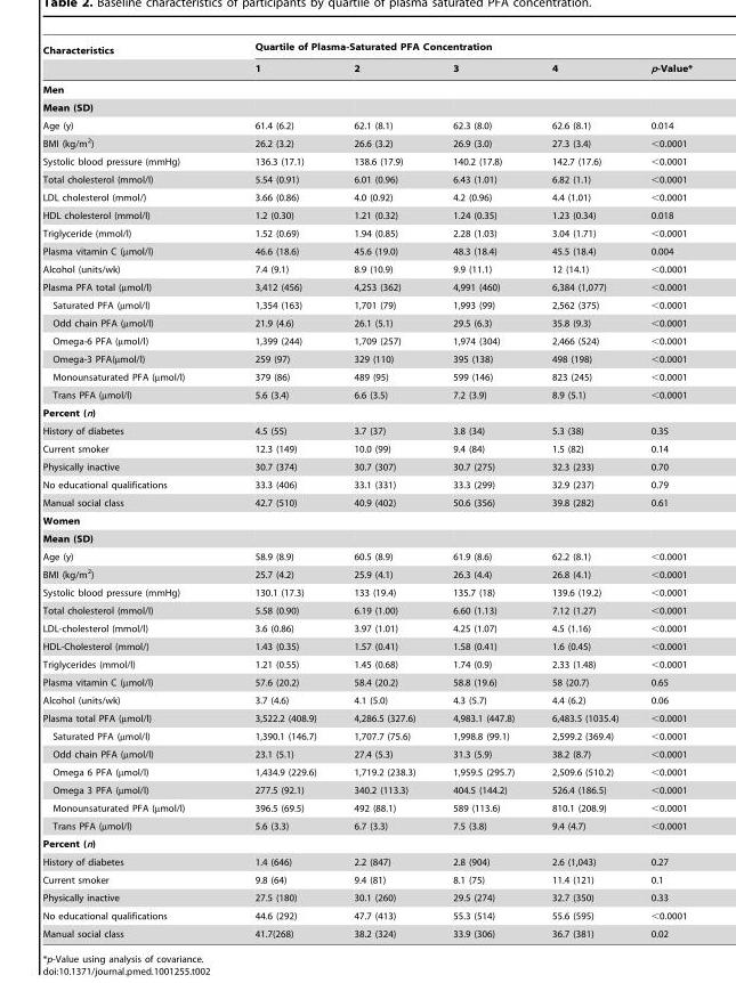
<table><thead><tr><td rowspan="2">Characteristics</td><td colspan="5">Quartile of Plasma-Saturated PFA Concentration</td></tr><tr><td>1</td><td>2</td><td>3</td><td>4</td><td>p-Value*</td></tr></thead><tbody><tr><td colspan="6">Men</td></tr><tr><td colspan="6">Mean (SD)</td></tr><tr><td>Age (y)</td><td>61.4 (6.2)</td><td>62.1 (8.1)</td><td>62.3 (8.0)</td><td>62.6 (8.1)</td><td>0.014</td></tr><tr><td>BMI (kg/m<sup>2</sup>)</td><td>26.2 (3.2)</td><td>26.6 (3.2)</td><td>26.9 (3.0)</td><td>27.3 (3.4)</td><td>&lt;0.0001</td></tr><tr><td>Systolic blood pressure (mmHg)</td><td>136.3 (17.1)</td><td>138.6 (17.9)</td><td>140.2 (17.8)</td><td>142.7 (17.6)</td><td>&lt;0.0001</td></tr><tr><td>Total cholesterol (mmol/l)</td><td>5.54 (0.91)</td><td>6.01 (0.96)</td><td>6.43 (1.01)</td><td>6.82 (1.1)</td><td>&lt;0.0001</td></tr><tr><td>LDL cholesterol (mmol/)</td><td>3.66 (0.86)</td><td>4.0 (0.92)</td><td>4.2 (0.96)</td><td>4.4 (1.01)</td><td>&lt;0.0001</td></tr><tr><td>HDL cholesterol (mmol/l)</td><td>1.2 (0.30)</td><td>1.21 (0.32)</td><td>1.24 (0.35)</td><td>1.23 (0.34)</td><td>0.018</td></tr><tr><td>Triglyceride (mmol/l)</td><td>1.52 (0.69)</td><td>1.94 (0.85)</td><td>2.28 (1.03)</td><td>3.04 (1.71)</td><td>&lt;0.0001</td></tr><tr><td>Plasma vitamin C (µmol/l)</td><td>46.6 (18.6)</td><td>45.6 (19.0)</td><td>48.3 (18.4)</td><td>45.5 (18.4)</td><td>0.004</td></tr><tr><td>Alcohol (units/wk)</td><td>7.4 (9.1)</td><td>8.9 (10.9)</td><td>9.9 (11.1)</td><td>12 (14.1)</td><td>&lt;0.0001</td></tr><tr><td>Plasma PFA total (µmol/l)</td><td>3,412 (456)</td><td>4,253 (362)</td><td>4,991 (460)</td><td>6,384 (1,077)</td><td>&lt;0.0001</td></tr><tr><td>Saturated PFA (µmol/l)</td><td>1,354 (163)</td><td>1,701 (79)</td><td>1,993 (99)</td><td>2,562 (375)</td><td>&lt;0.0001</td></tr><tr><td>Odd chain PFA (µmol/l)</td><td>21.9 (4.6)</td><td>26.1 (5.1)</td><td>29.5 (6.3)</td><td>35.8 (9.3)</td><td>&lt;0.0001</td></tr><tr><td>Omega-6 PFA (µmol/l)</td><td>1,399 (244)</td><td>1,709 (257)</td><td>1,974 (304)</td><td>2,466 (524)</td><td>&lt;0.0001</td></tr><tr><td>Omega-3 PFA(µmol/l)</td><td>259 (97)</td><td>329 (110)</td><td>395 (138)</td><td>498 (198)</td><td>&lt;0.0001</td></tr><tr><td>Monounsaturated PFA (µmol/l)</td><td>379 (86)</td><td>489 (95)</td><td>599 (146)</td><td>823 (245)</td><td>&lt;0.0001</td></tr><tr><td>Trans PFA (µmol/l)</td><td>5.6 (3.4)</td><td>6.6 (3.5)</td><td>7.2 (3.9)</td><td>8.9 (5.1)</td><td>&lt;0.0001</td></tr><tr><td colspan="6">Percent (n)</td></tr><tr><td>History of diabetes</td><td>4.5 (55)</td><td>3.7 (37)</td><td>3.8 (34)</td><td>5.3 (38)</td><td>0.35</td></tr><tr><td>Current smoker</td><td>12.3 (149)</td><td>10.0 (99)</td><td>9.4 (84)</td><td>1.5 (82)</td><td>0.14</td></tr><tr><td>Physically inactive</td><td>30.7 (374)</td><td>30.7 (307)</td><td>30.7 (275)</td><td>32.3 (233)</td><td>0.70</td></tr><tr><td>No educational qualifications</td><td>33.3 (406)</td><td>33.1 (331)</td><td>33.3 (299)</td><td>32.9 (237)</td><td>0.79</td></tr><tr><td>Manual social class</td><td>42.7 (510)</td><td>40.9 (402)</td><td>50.6 (356)</td><td>39.8 (282)</td><td>0.61</td></tr><tr><td colspan="6">Women</td></tr><tr><td colspan="6">Mean (SD)</td></tr><tr><td>Age (y)</td><td>58.9 (8.9)</td><td>60.5 (8.9)</td><td>61.9 (8.6)</td><td>62.2 (8.1)</td><td>&lt;0.0001</td></tr><tr><td>BMI (kg/m<sup>2</sup>)</td><td>25.7 (4.2)</td><td>25.9 (4.1)</td><td>26.3 (4.4)</td><td>26.8 (4.1)</td><td>&lt;0.0001</td></tr><tr><td>Systolic blood pressure (mmHg)</td><td>130.1 (17.3)</td><td>133 (19.4)</td><td>135.7 (18)</td><td>139.6 (19.2)</td><td>&lt;0.0001</td></tr><tr><td>Total cholesterol (mmol/l)</td><td>5.58 (0.90)</td><td>6.19 (1.00)</td><td>6.60 (1.13)</td><td>7.12 (1.27)</td><td>&lt;0.0001</td></tr><tr><td>LDL-cholesterol (mmol/l)</td><td>3.6 (0.86)</td><td>3.97 (1.01)</td><td>4.25 (1.07)</td><td>4.5 (1.16)</td><td>&lt;0.0001</td></tr><tr><td>HDL-Cholesterol (mmol/)</td><td>1.43 (0.35)</td><td>1.57 (0.41)</td><td>1.58 (0.41)</td><td>1.6 (0.45)</td><td>&lt;0.0001</td></tr><tr><td>Triglycerides (mmol/l)</td><td>1.21 (0.55)</td><td>1.45 (0.68)</td><td>1.74 (0.9)</td><td>2.33 (1.48)</td><td>&lt;0.0001</td></tr><tr><td>Plasma vitamin C (µmol/l)</td><td>57.6 (20.2)</td><td>58.4 (20.2)</td><td>58.8 (19.6)</td><td>58 (20.7)</td><td>0.65</td></tr><tr><td>Alcohol (units/wk)</td><td>3.7 (4.6)</td><td>4.1 (5.0)</td><td>4.3 (5.7)</td><td>4.4 (6.2)</td><td>0.06</td></tr><tr><td>Plasma total PFA (µmol/l)</td><td>3,522.2 (408.9)</td><td>4,286.5 (327.6)</td><td>4,983.1 (447.8)</td><td>6,483.5 (1035.4)</td><td>&lt;0.0001</td></tr><tr><td>Saturated PFA (µmol/l)</td><td>1,390.1 (146.7)</td><td>1,707.7 (75.6)</td><td>1,998.8 (99.1)</td><td>2,599.2 (369.4)</td><td>&lt;0.0001</td></tr><tr><td>Odd chain PFA (µmol/l)</td><td>23.1 (5.1)</td><td>27.4 (5.3)</td><td>31.3 (5.9)</td><td>38.2 (8.7)</td><td>&lt;0.0001</td></tr><tr><td>Omega 6 PFA (µmol/l)</td><td>1,434.9 (229.6)</td><td>1,719.2 (238.3)</td><td>1,959.5 (295.7)</td><td>2,509.6 (510.2)</td><td>&lt;0.0001</td></tr><tr><td>Omega 3 PFA (µmol/l)</td><td>277.5 (92.1)</td><td>340.2 (113.3)</td><td>404.5 (144.2)</td><td>526.4 (186.5)</td><td>&lt;0.0001</td></tr><tr><td>Monounsaturated PFA (µmol/l)</td><td>396.5 (69.5)</td><td>492 (88.1)</td><td>589 (113.6)</td><td>810.1 (208.9)</td><td>&lt;0.0001</td></tr><tr><td>Trans PFA (µmol/l)</td><td>5.6 (3.3)</td><td>6.7 (3.3)</td><td>7.5 (3.8)</td><td>9.4 (4.7)</td><td>&lt;0.0001</td></tr><tr><td colspan="6">Percent (n)</td></tr><tr><td>History of diabetes</td><td>1.4 (646)</td><td>2.2 (847)</td><td>2.8 (904)</td><td>2.6 (1,043)</td><td>0.27</td></tr><tr><td>Current smoker</td><td>9.8 (64)</td><td>9.4 (81)</td><td>8.1 (75)</td><td>11.4 (121)</td><td>0.1</td></tr><tr><td>Physically inactive</td><td>27.5 (180)</td><td>30.1 (260)</td><td>29.5 (274)</td><td>32.7 (350)</td><td>0.33</td></tr><tr><td>No educational qualifications</td><td>44.6 (292)</td><td>47.7 (413)</td><td>55.3 (514)</td><td>55.6 (595)</td><td>&lt;0.0001</td></tr><tr><td>Manual social class</td><td>41.7(268)</td><td>38.2 (324)</td><td>33.9 (306)</td><td>36.7 (381)</td><td>0.02</td></tr></tbody></table>